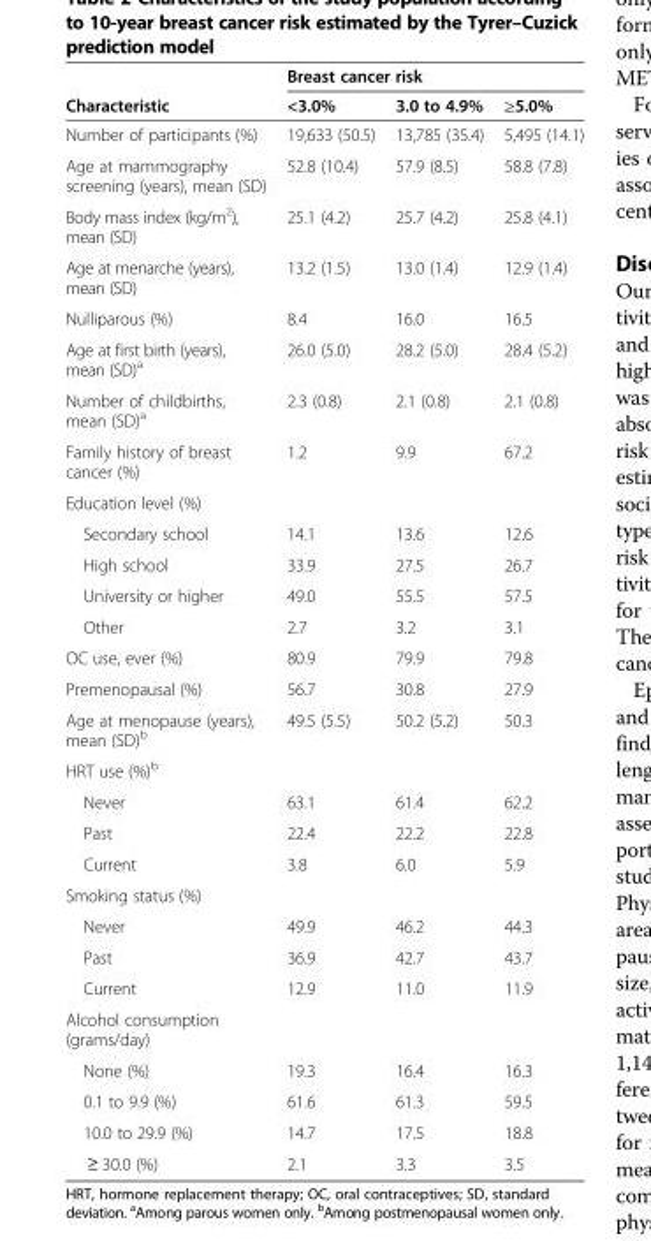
<table><thead><tr><td rowspan="2">Characteristic</td><td colspan="3">Breast cancer risk</td></tr><tr><td>&lt;3.0%</td><td>3.0 to 4.9%</td><td>≥5.0%</td></tr></thead><tbody><tr><td>Number of participants (%)</td><td>19,633 (50.5)</td><td>13,785 (35.4)</td><td>5,495 (14.1)</td></tr><tr><td>Age at mammography screening (years), mean (SD)</td><td>52.8 (10.4)</td><td>57.9 (8.5)</td><td>58.8 (7.8)</td></tr><tr><td>Body mass index (kg/m<sup>2</sup>), mean (SD)</td><td>25.1 (4.2)</td><td>25.7 (4.2)</td><td>25.8 (4.1)</td></tr><tr><td>Age at menarche (years), mean (SD)</td><td>13.2 (1.5)</td><td>13.0 (1.4)</td><td>12.9 (1.4)</td></tr><tr><td>Nulliparous (%)</td><td>8.4</td><td>16.0</td><td>16.5</td></tr><tr><td>Age at first birth (years), mean (SD)<sup>a</sup></td><td>26.0 (5.0)</td><td>28.2 (5.0)</td><td>28.4 (5.2)</td></tr><tr><td>Number of childbirths, mean (SD)<sup>a</sup></td><td>2.3 (0.8)</td><td>2.1 (0.8)</td><td>2.1 (0.8)</td></tr><tr><td>Family history of breast cancer (%)</td><td>1.2</td><td>9.9</td><td>67.2</td></tr><tr><td colspan="4">Education level (%)</td></tr><tr><td>Secondary school</td><td>14.1</td><td>13.6</td><td>12.6</td></tr><tr><td>High school</td><td>33.9</td><td>27.5</td><td>26.7</td></tr><tr><td>University or higher</td><td>49.0</td><td>55.5</td><td>57.5</td></tr><tr><td>Other</td><td>2.7</td><td>3.2</td><td>3.1</td></tr><tr><td>OC use, ever (%)</td><td>80.9</td><td>79.9</td><td>79.8</td></tr><tr><td>Premenopausal (%)</td><td>56.7</td><td>30.8</td><td>27.9</td></tr><tr><td>Age at menopause (years), mean (SD)<sup>b</sup></td><td>49.5 (5.5)</td><td>50.2 (5.2)</td><td>50.3</td></tr><tr><td colspan="4">HRT use (%)<sup>b</sup></td></tr><tr><td>Never</td><td>63.1</td><td>61.4</td><td>62.2</td></tr><tr><td>Past</td><td>22.4</td><td>22.2</td><td>22.8</td></tr><tr><td>Current</td><td>3.8</td><td>6.0</td><td>5.9</td></tr><tr><td colspan="4">Smoking status (%)</td></tr><tr><td>Never</td><td>49.9</td><td>46.2</td><td>44.3</td></tr><tr><td>Past</td><td>36.9</td><td>42.7</td><td>43.7</td></tr><tr><td>Current</td><td>12.9</td><td>11.0</td><td>11.9</td></tr><tr><td colspan="4">Alcohol consumption (grams/day)</td></tr><tr><td>None (%)</td><td>19.3</td><td>16.4</td><td>16.3</td></tr><tr><td>0.1 to 9.9 (%)</td><td>61.6</td><td>61.3</td><td>59.5</td></tr><tr><td>10.0 to 29.9 (%)</td><td>14.7</td><td>17.5</td><td>18.8</td></tr><tr><td>≥ 30.0 (%)</td><td>2.1</td><td>3.3</td><td>3.5</td></tr></tbody></table>